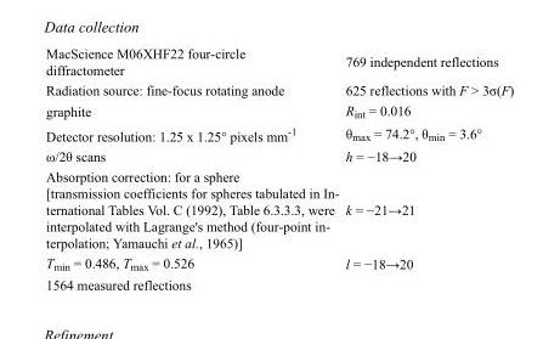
<table><tbody><tr><td>MacScience M06XHF22 four-circle diffractometer</td><td>769 independent reflections</td></tr><tr><td>Radiation source: fine-focus rotating anode</td><td>625 reflections with F &gt; 3σ(F)</td></tr><tr><td>graphite</td><td>R<sub>int</sub> = 0.016</td></tr><tr><td>Detector resolution: 1.25 x 1.25° pixels mm<sup>-1</sup></td><td>θ<sub>max</sub> = 74.2°, θ<sub>min</sub> = 3.6°</td></tr><tr><td>ω/2θ scans</td><td>h = −18→20</td></tr><tr><td>Absorption correction: for a sphere [transmission coefficients for spheres tabulated in In- ternational Tables Vol. C (1992), Table 6.3.3.3, were interpolated with Lagrange&#x27;s method (four-point in- terpolation; Yamauchi et al., 1965)]</td><td>k = −21→21</td></tr><tr><td>T<sub>min</sub> = 0.486, T<sub>max</sub> = 0.526</td><td>l = −18→20</td></tr><tr><td>1564 measured reflections</td><td></td></tr></tbody></table>